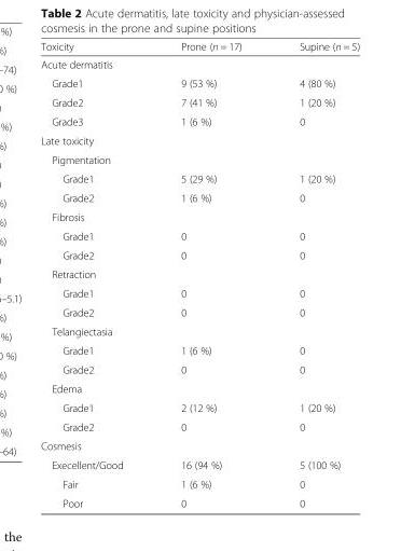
<table><thead><tr><td>Toxicity</td><td>Prone (n = 17)</td><td>Supine (n = 5)</td></tr></thead><tbody><tr><td colspan="3">Acute dermatitis</td></tr><tr><td>Grade1</td><td>9 (53 %)</td><td>4 (80 %)</td></tr><tr><td>Grade2</td><td>7 (41 %)</td><td>1 (20 %)</td></tr><tr><td>Grade3</td><td>1 (6 %)</td><td>0</td></tr><tr><td colspan="3">Late toxicity</td></tr><tr><td colspan="3">Pigmentation</td></tr><tr><td>Grade1</td><td>5 (29 %)</td><td>1 (20 %)</td></tr><tr><td>Grade2</td><td>1 (6 %)</td><td>0</td></tr><tr><td colspan="3">Fibrosis</td></tr><tr><td>Grade1</td><td>0</td><td>0</td></tr><tr><td>Grade2</td><td>0</td><td>0</td></tr><tr><td colspan="3">Retraction</td></tr><tr><td>Grade1</td><td>0</td><td>0</td></tr><tr><td>Grade2</td><td>0</td><td>0</td></tr><tr><td colspan="3">Telangiectasia</td></tr><tr><td>Grade1</td><td>1 (6 %)</td><td>0</td></tr><tr><td>Grade2</td><td>0</td><td>0</td></tr><tr><td colspan="3">Edema</td></tr><tr><td>Grade1</td><td>2 (12 %)</td><td>1 (20 %)</td></tr><tr><td>Grade2</td><td>0</td><td>0</td></tr><tr><td colspan="3">Cosmesis</td></tr><tr><td>Execellent/Good</td><td>16 (94 %)</td><td>5 (100 %)</td></tr><tr><td>Fair</td><td>1 (6 %)</td><td>0</td></tr><tr><td>Poor</td><td>0</td><td>0</td></tr></tbody></table>